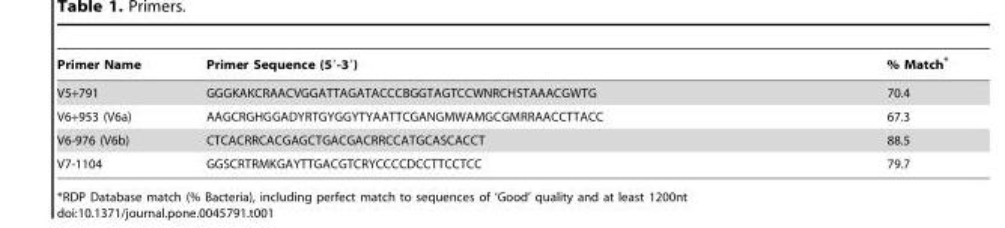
<table><thead><tr><td>Primer Name</td><td>Primer Sequence (5′-3′)</td><td>% Match*</td></tr></thead><tbody><tr><td>V5+791</td><td>GGGKAKCRAACVGGATTAGATACCCBGGTAGTCCWNRCHSTAAACGWTG</td><td>70.4</td></tr><tr><td>V6+953 (V6a)</td><td>AAGCRGHGGADYRTGYGGYTYAATTCGANGMWAMGCGMRRAACCTTACC</td><td>67.3</td></tr><tr><td>V6-976 (V6b)</td><td>CTCACRRCACGAGCTGACGACRRCCATGCASCACCT</td><td>88.5</td></tr><tr><td>V7-1104</td><td>GGSCRTRMKGAYTTGACGTCRYCCCCDCCTTCCTCC</td><td>79.7</td></tr></tbody></table>